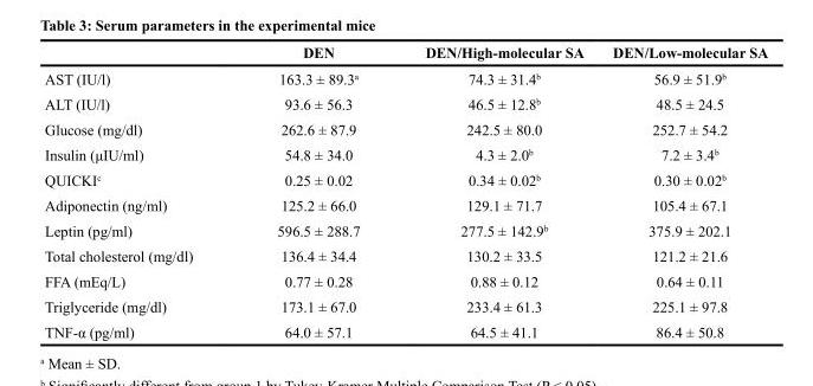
<table><thead><tr><td></td><td>DEN</td><td>DEN/High-molecular SA</td><td>DEN/Low-molecular SA</td></tr></thead><tbody><tr><td>AST (IU/l)</td><td>163.3 ± 89.3 <sup>a</sup></td><td>74.3 ± 31.4 <sup>b</sup></td><td>56.9 ± 51.9 <sup>b</sup></td></tr><tr><td>ALT (IU/l)</td><td>93.6 ± 56.3</td><td>46.5 ± 12.8 <sup>b</sup></td><td>48.5 ± 24.5</td></tr><tr><td>Glucose (mg/dl)</td><td>262.6 ± 87.9</td><td>242.5 ± 80.0</td><td>252.7 ± 54.2</td></tr><tr><td>Insulin (μIU/ml)</td><td>54.8 ± 34.0</td><td>4.3 ± 2.0 <sup>b</sup></td><td>7.2 ± 3.4 <sup>b</sup></td></tr><tr><td>QUICKI <sup>c</sup></td><td>0.25 ± 0.02</td><td>0.34 ± 0.02 <sup>b</sup></td><td>0.30 ± 0.02 <sup>b</sup></td></tr><tr><td>Adiponectin (ng/ml)</td><td>125.2 ± 66.0</td><td>129.1 ± 71.7</td><td>105.4 ± 67.1</td></tr><tr><td>Leptin (pg/ml)</td><td>596.5 ± 288.7</td><td>277.5 ± 142.9 <sup>b</sup></td><td>375.9 ± 202.1</td></tr><tr><td>Total cholesterol (mg/dl)</td><td>136.4 ± 34.4</td><td>130.2 ± 33.5</td><td>121.2 ± 21.6</td></tr><tr><td>FFA (mEq/L)</td><td>0.77 ± 0.28</td><td>0.88 ± 0.12</td><td>0.64 ± 0.11</td></tr><tr><td>Triglyceride (mg/dl)</td><td>173.1 ± 67.0</td><td>233.4 ± 61.3</td><td>225.1 ± 97.8</td></tr><tr><td>TNF-α (pg/ml)</td><td>64.0 ± 57.1</td><td>64.5 ± 41.1</td><td>86.4 ± 50.8</td></tr></tbody></table>